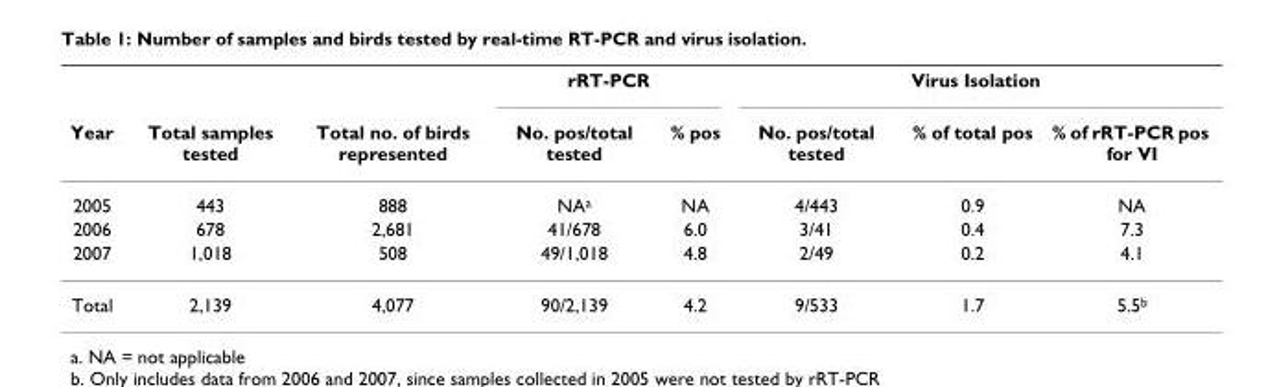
<table><thead><tr><td rowspan="2">Year</td><td rowspan="2">Total samples tested</td><td rowspan="2">Total no. of birds represented</td><td colspan="2">rRT-PCR</td><td colspan="3">Virus Isolation</td></tr><tr><td>No. pos/total tested</td><td>% pos</td><td>No. pos/total tested</td><td>% of total pos</td><td>% of rRT-PCR pos for VI</td></tr></thead><tbody><tr><td>2005</td><td>443</td><td>888</td><td>NA<sup>a</sup></td><td>NA</td><td>4/443</td><td>0.9</td><td>NA</td></tr><tr><td>2006</td><td>678</td><td>2,681</td><td>41/678</td><td>6.0</td><td>3/41</td><td>0.4</td><td>7.3</td></tr><tr><td>2007</td><td>1,018</td><td>508</td><td>49/1,018</td><td>4.8</td><td>2/49</td><td>0.2</td><td>4.1</td></tr><tr><td>Total</td><td>2,139</td><td>4,077</td><td>90/2,139</td><td>4.2</td><td>9/533</td><td>1.7</td><td>5.5<sup>b</sup></td></tr></tbody></table>